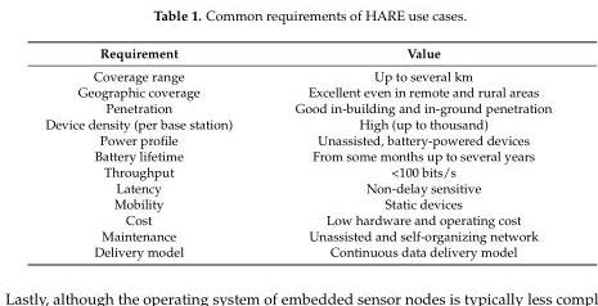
<table><thead><tr><td>Requirement</td><td>Value</td></tr></thead><tbody><tr><td>Coverage range</td><td>Up to several km</td></tr><tr><td>Geographic coverage</td><td>Excellent even in remote and rural areas</td></tr><tr><td>Penetration</td><td>Good in-building and in-ground penetration</td></tr><tr><td>Device density (per base station)</td><td>High (up to thousand)</td></tr><tr><td>Power profile</td><td>Unassisted, battery-powered devices</td></tr><tr><td>Battery lifetime</td><td>From some months up to several years</td></tr><tr><td>Throughput</td><td>&lt;100 bits/s</td></tr><tr><td>Latency</td><td>Non-delay sensitive</td></tr><tr><td>Mobility</td><td>Static devices</td></tr><tr><td>Cost</td><td>Low hardware and operating cost</td></tr><tr><td>Maintenance</td><td>Unassisted and self-organizing network</td></tr><tr><td>Delivery model</td><td>Continuous data delivery model</td></tr></tbody></table>